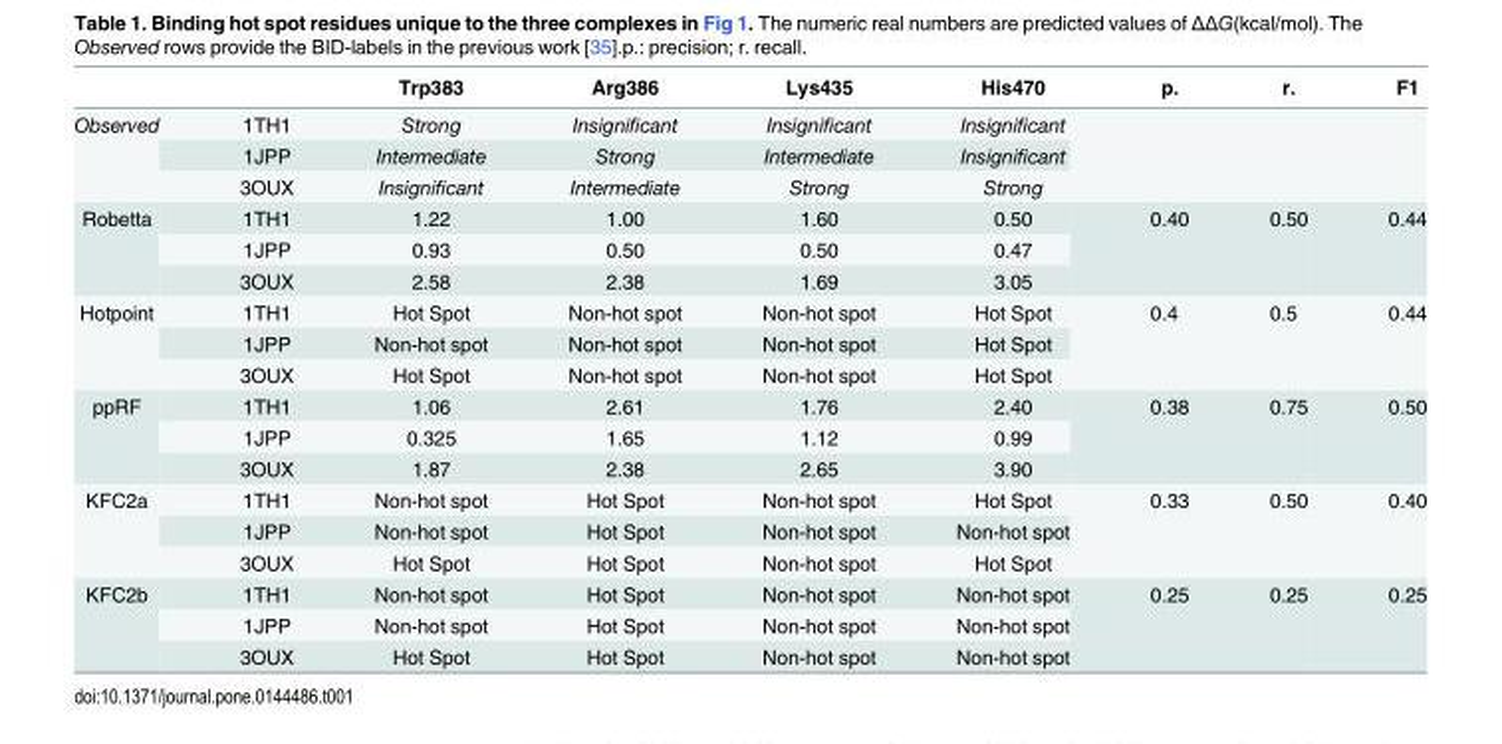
<table><thead><tr><td></td><td></td><td>Trp383</td><td>Arg386</td><td>Lys435</td><td>His470</td><td>p.</td><td>r.</td><td>F1</td></tr></thead><tbody><tr><td rowspan="3">Observed</td><td>1TH1</td><td>Strong</td><td>Insignificant</td><td>Insignificant</td><td>Insignificant</td><td rowspan="3"></td><td rowspan="3"></td><td rowspan="3"></td></tr><tr><td>1JPP</td><td>Intermediate</td><td>Strong</td><td>Intermediate</td><td>Insignificant</td></tr><tr><td>3OUX</td><td>Insignificant</td><td>Intermediate</td><td>Strong</td><td>Strong</td></tr><tr><td rowspan="3">Robetta</td><td>1TH1</td><td>1.22</td><td>1.00</td><td>1.60</td><td>0.50</td><td rowspan="3">0.40</td><td rowspan="3">0.50</td><td rowspan="3">0.44</td></tr><tr><td>1JPP</td><td>0.93</td><td>0.50</td><td>0.50</td><td>0.47</td></tr><tr><td>3OUX</td><td>2.58</td><td>2.38</td><td>1.69</td><td>3.05</td></tr><tr><td rowspan="3">Hotpoint</td><td>1TH1</td><td>Hot Spot</td><td>Non-hot spot</td><td>Non-hot spot</td><td>Hot Spot</td><td rowspan="3">0.4</td><td rowspan="3">0.5</td><td rowspan="3">0.44</td></tr><tr><td>1JPP</td><td>Non-hot spot</td><td>Non-hot spot</td><td>Non-hot spot</td><td>Hot Spot</td></tr><tr><td>3OUX</td><td>Hot Spot</td><td>Non-hot spot</td><td>Non-hot spot</td><td>Hot Spot</td></tr><tr><td rowspan="3">ppRF</td><td>1TH1</td><td>1.06</td><td>2.61</td><td>1.76</td><td>2.40</td><td rowspan="3">0.38</td><td rowspan="3">0.75</td><td rowspan="3">0.50</td></tr><tr><td>1JPP</td><td>0.325</td><td>1.65</td><td>1.12</td><td>0.99</td></tr><tr><td>3OUX</td><td>1.87</td><td>2.38</td><td>2.65</td><td>3.90</td></tr><tr><td rowspan="3">KFC2a</td><td>1TH1</td><td>Non-hot spot</td><td>Hot Spot</td><td>Non-hot spot</td><td>Hot Spot</td><td rowspan="3">0.33</td><td rowspan="3">0.50</td><td rowspan="3">0.40</td></tr><tr><td>1JPP</td><td>Non-hot spot</td><td>Hot Spot</td><td>Non-hot spot</td><td>Non-hot spot</td></tr><tr><td>3OUX</td><td>Hot Spot</td><td>Hot Spot</td><td>Non-hot spot</td><td>Hot Spot</td></tr><tr><td rowspan="3">KFC2b</td><td>1TH1</td><td>Non-hot spot</td><td>Hot Spot</td><td>Non-hot spot</td><td>Non-hot spot</td><td rowspan="3">0.25</td><td rowspan="3">0.25</td><td rowspan="3">0.25</td></tr><tr><td>1JPP</td><td>Non-hot spot</td><td>Hot Spot</td><td>Non-hot spot</td><td>Non-hot spot</td></tr><tr><td>3OUX</td><td>Hot Spot</td><td>Hot Spot</td><td>Non-hot spot</td><td>Non-hot spot</td></tr></tbody></table>